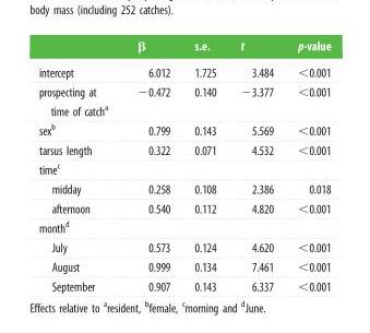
<table><thead><tr><td></td><td>β</td><td>s.e.</td><td>t</td><td>p-value</td></tr></thead><tbody><tr><td>intercept</td><td>6.012</td><td>1.725</td><td>3.484</td><td>&lt;0.001</td></tr><tr><td>prospecting at time of catch<sup>a</sup></td><td>−0.472</td><td>0.140</td><td>−3.377</td><td>&lt;0.001</td></tr><tr><td>sex<sup>b</sup></td><td>0.799</td><td>0.143</td><td>5.569</td><td>&lt;0.001</td></tr><tr><td>tarsus length</td><td>0.322</td><td>0.071</td><td>4.532</td><td>&lt;0.001</td></tr><tr><td colspan="5">time<sup>c</sup></td></tr><tr><td>midday</td><td>0.258</td><td>0.108</td><td>2.386</td><td>0.018</td></tr><tr><td>afternoon</td><td>0.540</td><td>0.112</td><td>4.820</td><td>&lt;0.001</td></tr><tr><td colspan="5">month<sup>d</sup></td></tr><tr><td>July</td><td>0.573</td><td>0.124</td><td>4.620</td><td>&lt;0.001</td></tr><tr><td>August</td><td>0.999</td><td>0.134</td><td>7.461</td><td>&lt;0.001</td></tr><tr><td>September</td><td>0.907</td><td>0.143</td><td>6.337</td><td>&lt;0.001</td></tr></tbody></table>